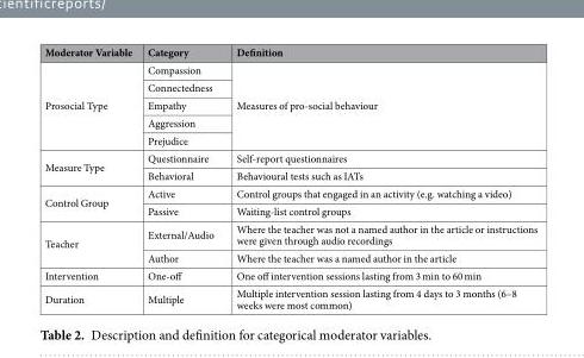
<table><thead><tr><td>Moderator Variable</td><td>Category</td><td>Definition</td></tr></thead><tbody><tr><td rowspan="5">Prosocial Type</td><td>Compassion</td><td rowspan="5">Measures of pro-social behaviour</td></tr><tr><td>Connectedness</td></tr><tr><td>Empathy</td></tr><tr><td>Aggression</td></tr><tr><td>Prejudice</td></tr><tr><td rowspan="2">Measure Type</td><td>Questionnaire</td><td>Self-report questionnaires</td></tr><tr><td>Behavioral</td><td>Behavioural tests such as IATs</td></tr><tr><td rowspan="2">Control Group</td><td>Active</td><td>Control groups that engaged in an activity (e.g. watching a video)</td></tr><tr><td>Passive</td><td>Waiting-list control groups</td></tr><tr><td rowspan="2">Teacher</td><td>External/Audio</td><td>Where the teacher was not a named author in the article or instructions were given through audio recordings</td></tr><tr><td>Author</td><td>Where the teacher was a named author in the article</td></tr><tr><td>Intervention</td><td>One-off</td><td>One off intervention sessions lasting from 3 min to 60 min</td></tr><tr><td>Duration</td><td>Multiple</td><td>Multiple intervention session lasting from 4 days to 3 months (6–8 weeks were most common)</td></tr></tbody></table>